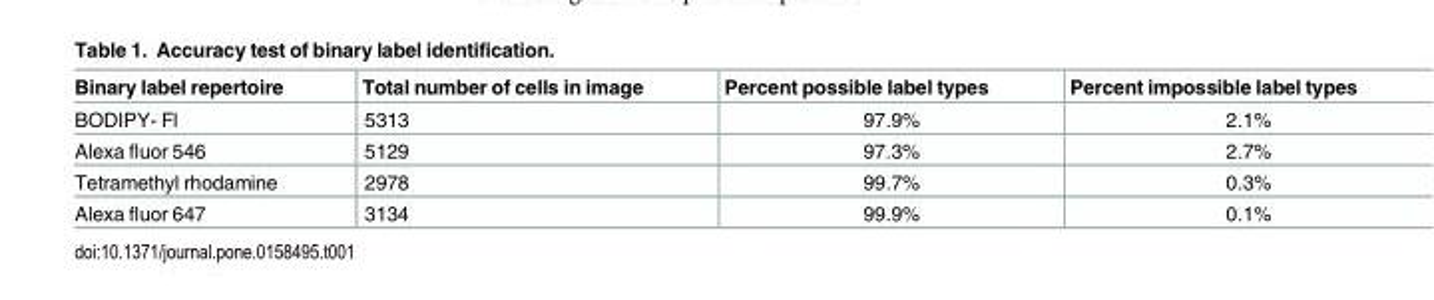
<table><thead><tr><td>Binary label repertoire</td><td>Total number of cells in image</td><td>Percent possible label types</td><td>Percent impossible label types</td></tr></thead><tbody><tr><td>BODIPY- Fl</td><td>5313</td><td>97.9%</td><td>2.1%</td></tr><tr><td>Alexa fluor 546</td><td>5129</td><td>97.3%</td><td>2.7%</td></tr><tr><td>Tetramethyl rhodamine</td><td>2978</td><td>99.7%</td><td>0.3%</td></tr><tr><td>Alexa fluor 647</td><td>3134</td><td>99.9%</td><td>0.1%</td></tr></tbody></table>